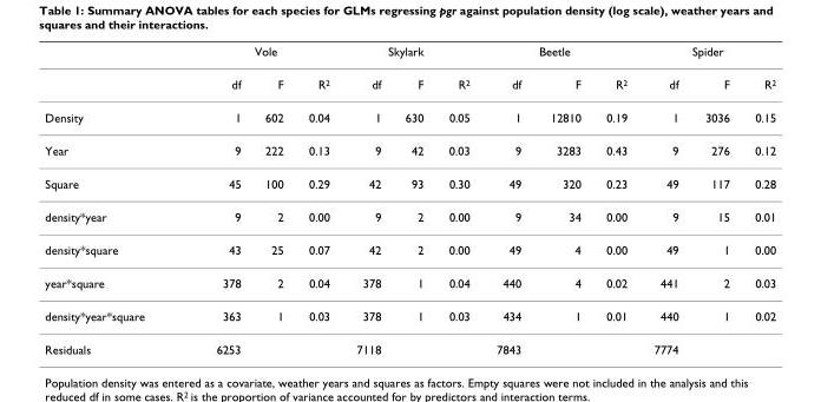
<table><thead><tr><td rowspan="2"></td><td colspan="3">Vole</td><td colspan="3">Skylark</td><td colspan="3">Beetle</td><td colspan="3">Spider</td></tr><tr><td>df</td><td>F</td><td>R<sup>2</sup></td><td>df</td><td>F</td><td>R<sup>2</sup></td><td>df</td><td>F</td><td>R<sup>2</sup></td><td>df</td><td>F</td><td>R<sup>2</sup></td></tr></thead><tbody><tr><td>Density</td><td>1</td><td>602</td><td>0.04</td><td>1</td><td>630</td><td>0.05</td><td>1</td><td>12810</td><td>0.19</td><td>1</td><td>3036</td><td>0.15</td></tr><tr><td>Year</td><td>9</td><td>222</td><td>0.13</td><td>9</td><td>42</td><td>0.03</td><td>9</td><td>3283</td><td>0.43</td><td>9</td><td>276</td><td>0.12</td></tr><tr><td>Square</td><td>45</td><td>100</td><td>0.29</td><td>42</td><td>93</td><td>0.30</td><td>49</td><td>320</td><td>0.23</td><td>49</td><td>117</td><td>0.28</td></tr><tr><td>density*year</td><td>9</td><td>2</td><td>0.00</td><td>9</td><td>2</td><td>0.00</td><td>9</td><td>34</td><td>0.00</td><td>9</td><td>15</td><td>0.01</td></tr><tr><td>density*square</td><td>43</td><td>25</td><td>0.07</td><td>42</td><td>2</td><td>0.00</td><td>49</td><td>4</td><td>0.00</td><td>49</td><td>1</td><td>0.00</td></tr><tr><td>year*square</td><td>378</td><td>2</td><td>0.04</td><td>378</td><td>1</td><td>0.04</td><td>440</td><td>4</td><td>0.02</td><td>441</td><td>2</td><td>0.03</td></tr><tr><td>density*year*square</td><td>363</td><td>1</td><td>0.03</td><td>378</td><td>1</td><td>0.03</td><td>434</td><td>1</td><td>0.01</td><td>440</td><td>1</td><td>0.02</td></tr><tr><td>Residuals</td><td>6253</td><td></td><td></td><td>7118</td><td></td><td></td><td>7843</td><td></td><td></td><td>7774</td><td></td><td></td></tr></tbody></table>